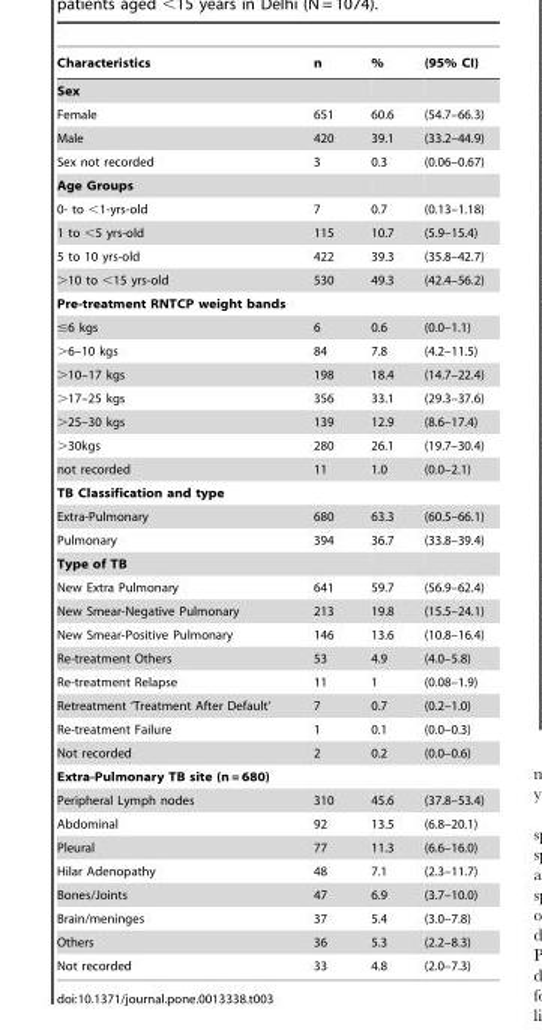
<table><thead><tr><td>Characteristics</td><td>n</td><td>%</td><td>(95% CI)</td></tr></thead><tbody><tr><td colspan="4">Sex</td></tr><tr><td>Female</td><td>651</td><td>60.6</td><td>(54.7–66.3)</td></tr><tr><td>Male</td><td>420</td><td>39.1</td><td>(33.2–44.9)</td></tr><tr><td>Sex not recorded</td><td>3</td><td>0.3</td><td>(0.06–0.67)</td></tr><tr><td colspan="4">Age Groups</td></tr><tr><td>0- to &lt;1-yrs-old</td><td>7</td><td>0.7</td><td>(0.13–1.18)</td></tr><tr><td>1 to &lt;5 yrs-old</td><td>115</td><td>10.7</td><td>(5.9–15.4)</td></tr><tr><td>5 to 10 yrs-old</td><td>422</td><td>39.3</td><td>(35.8–42.7)</td></tr><tr><td>&gt;10 to &lt;15 yrs-old</td><td>530</td><td>49.3</td><td>(42.4–56.2)</td></tr><tr><td colspan="4">Pre-treatment RNTCP weight bands</td></tr><tr><td>≤6 kgs</td><td>6</td><td>0.6</td><td>(0.0–1.1)</td></tr><tr><td>&gt;6–10 kgs</td><td>84</td><td>7.8</td><td>(4.2–11.5)</td></tr><tr><td>&gt;10–17 kgs</td><td>198</td><td>18.4</td><td>(14.7–22.4)</td></tr><tr><td>&gt;17–25 kgs</td><td>356</td><td>33.1</td><td>(29.3–37.6)</td></tr><tr><td>&gt;25–30 kgs</td><td>139</td><td>12.9</td><td>(8.6–17.4)</td></tr><tr><td>&gt;30kgs</td><td>280</td><td>26.1</td><td>(19.7–30.4)</td></tr><tr><td>not recorded</td><td>11</td><td>1.0</td><td>(0.0–2.1)</td></tr><tr><td colspan="4">TB Classification and type</td></tr><tr><td>Extra-Pulmonary</td><td>680</td><td>63.3</td><td>(60.5–66.1)</td></tr><tr><td>Pulmonary</td><td>394</td><td>36.7</td><td>(33.8–39.4)</td></tr><tr><td colspan="4">Type of TB</td></tr><tr><td>New Extra Pulmonary</td><td>641</td><td>59.7</td><td>(56.9–62.4)</td></tr><tr><td>New Smear-Negative Pulmonary</td><td>213</td><td>19.8</td><td>(15.5–24.1)</td></tr><tr><td>New Smear-Positive Pulmonary</td><td>146</td><td>13.6</td><td>(10.8–16.4)</td></tr><tr><td>Re-treatment Others</td><td>53</td><td>4.9</td><td>(4.0–5.8)</td></tr><tr><td>Re-treatment Relapse</td><td>11</td><td>1</td><td>(0.08–1.9)</td></tr><tr><td>Retreatment ‘Treatment After Default’</td><td>7</td><td>0.7</td><td>(0.2–1.0)</td></tr><tr><td>Re-treatment Failure</td><td>1</td><td>0.1</td><td>(0.0–0.3)</td></tr><tr><td>Not recorded</td><td>2</td><td>0.2</td><td>(0.0–0.6)</td></tr><tr><td colspan="4">Extra-Pulmonary TB site (n = 680)</td></tr><tr><td>Peripheral Lymph nodes</td><td>310</td><td>45.6</td><td>(37.8–53.4)</td></tr><tr><td>Abdominal</td><td>92</td><td>13.5</td><td>(6.8–20.1)</td></tr><tr><td>Pleural</td><td>77</td><td>11.3</td><td>(6.6–16.0)</td></tr><tr><td>Hilar Adenopathy</td><td>48</td><td>7.1</td><td>(2.3–11.7)</td></tr><tr><td>Bones/Joints</td><td>47</td><td>6.9</td><td>(3.7–10.0)</td></tr><tr><td>Brain/meninges</td><td>37</td><td>5.4</td><td>(3.0–7.8)</td></tr><tr><td>Others</td><td>36</td><td>5.3</td><td>(2.2–8.3)</td></tr><tr><td>Not recorded</td><td>33</td><td>4.8</td><td>(2.0–7.3)</td></tr></tbody></table>